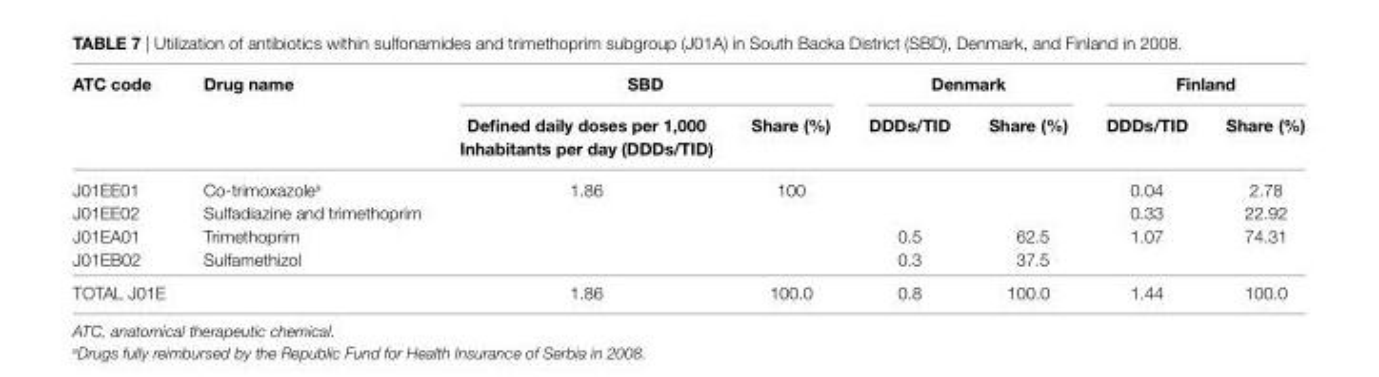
<table><thead><tr><td rowspan="2">aTc code</td><td rowspan="2">Drug name</td><td colspan="2">sBD</td><td colspan="2">Denmark</td><td colspan="2">Finland</td></tr><tr><td>Defined daily doses per 1,000 inhabitants per day (DDDs/TiD)</td><td>share (%)</td><td>DDDs/TiD</td><td>share (%)</td><td>DDDs/TiD</td><td>share (%)</td></tr></thead><tbody><tr><td>J01EE01</td><td>Co-trimoxazole<sup>a</sup></td><td>1.86</td><td>100</td><td></td><td></td><td>0.04</td><td>2.78</td></tr><tr><td>J01EE02</td><td>Sulfadiazine and trimethoprim</td><td></td><td></td><td></td><td></td><td>0.33</td><td>22.92</td></tr><tr><td>J01EA01</td><td>Trimethoprim</td><td></td><td></td><td>0.5</td><td>62.5</td><td>1.07</td><td>74.31</td></tr><tr><td>J01EB02</td><td>Sulfamethizol</td><td></td><td></td><td>0.3</td><td>37.5</td><td></td><td></td></tr><tr><td>TOTAL J01E</td><td></td><td>1.86</td><td>100.0</td><td>0.8</td><td>100.0</td><td>1.44</td><td>100.0</td></tr></tbody></table>